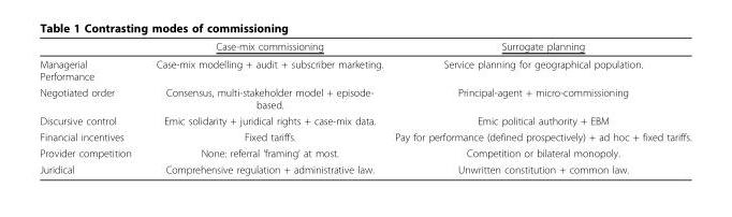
<table><thead><tr><td></td><td>Case-mix commissioning</td><td>Surrogate planning</td></tr></thead><tbody><tr><td>Managerial Performance</td><td>Case-mix modelling + audit + subscriber marketing.</td><td>Service planning for geographical population.</td></tr><tr><td>Negotiated order</td><td>Consensus, multi-stakeholder model + episode- based.</td><td>Principal-agent + micro-commissioning</td></tr><tr><td>Discursive control</td><td>Emic solidarity + juridical rights + case-mix data.</td><td>Emic political authority + EBM</td></tr><tr><td>Financial incentives</td><td>Fixed tariffs.</td><td>Pay for performance (defined prospectively) + ad hoc + fixed tariffs.</td></tr><tr><td>Provider competition</td><td>None: referral ‘framing’ at most.</td><td>Competition or bilateral monopoly.</td></tr><tr><td>Juridical</td><td>Comprehensive regulation + administrative law.</td><td>Unwritten constitution + common law.</td></tr></tbody></table>